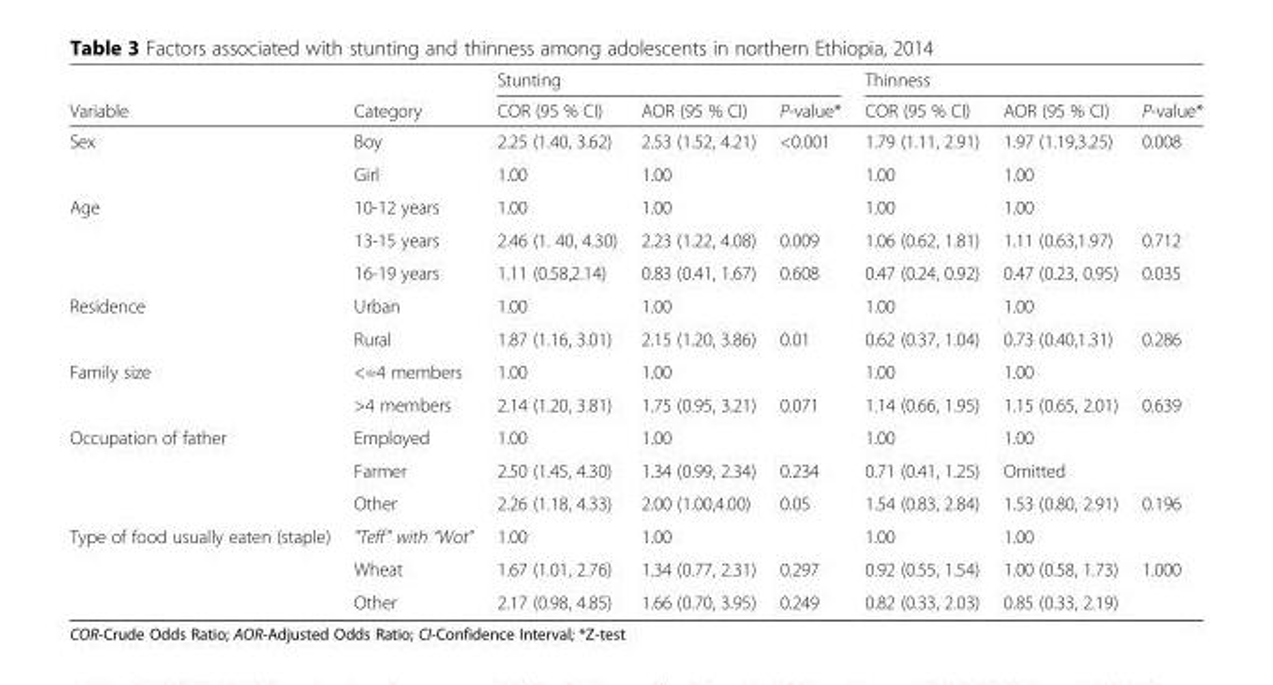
<table><thead><tr><td rowspan="2">Variable</td><td rowspan="2">Category</td><td colspan="3">Stunting</td><td colspan="3">Thinness</td></tr><tr><td>COR (95 % CI)</td><td>AOR (95 % CI)</td><td>P-value*</td><td>COR (95 % CI)</td><td>AOR (95 % CI)</td><td>P-value*</td></tr></thead><tbody><tr><td rowspan="2">Sex</td><td>Boy</td><td>2.25 (1.40, 3.62)</td><td>2.53 (1.52, 4.21)</td><td>&lt;0.001</td><td>1.79 (1.11, 2.91)</td><td>1.97 (1.19,3.25)</td><td>0.008</td></tr><tr><td>Girl</td><td>1.00</td><td>1.00</td><td></td><td>1.00</td><td>1.00</td><td></td></tr><tr><td rowspan="3">Age</td><td>10-12 years</td><td>1.00</td><td>1.00</td><td></td><td>1.00</td><td>1.00</td><td></td></tr><tr><td>13-15 years</td><td>2.46 (1. 40, 4.30)</td><td>2.23 (1.22, 4.08)</td><td>0.009</td><td>1.06 (0.62, 1.81)</td><td>1.11 (0.63,1.97)</td><td>0.712</td></tr><tr><td>16-19 years</td><td>1.11 (0.58,2.14)</td><td>0.83 (0.41, 1.67)</td><td>0.608</td><td>0.47 (0.24, 0.92)</td><td>0.47 (0.23, 0.95)</td><td>0.035</td></tr><tr><td rowspan="2">Residence</td><td>Urban</td><td>1.00</td><td>1.00</td><td></td><td>1.00</td><td>1.00</td><td></td></tr><tr><td>Rural</td><td>1.87 (1.16, 3.01)</td><td>2.15 (1.20, 3.86)</td><td>0.01</td><td>0.62 (0.37, 1.04)</td><td>0.73 (0.40,1.31)</td><td>0.286</td></tr><tr><td rowspan="2">Family size</td><td>&lt;=4 members</td><td>1.00</td><td>1.00</td><td></td><td>1.00</td><td>1.00</td><td></td></tr><tr><td>&gt;4 members</td><td>2.14 (1.20, 3.81)</td><td>1.75 (0.95, 3.21)</td><td>0.071</td><td>1.14 (0.66, 1.95)</td><td>1.15 (0.65, 2.01)</td><td>0.639</td></tr><tr><td rowspan="3">Occupation of father</td><td>Employed</td><td>1.00</td><td>1.00</td><td></td><td>1.00</td><td>1.00</td><td></td></tr><tr><td>Farmer</td><td>2.50 (1.45, 4.30)</td><td>1.34 (0.99, 2.34)</td><td>0.234</td><td>0.71 (0.41, 1.25)</td><td>Omitted</td><td></td></tr><tr><td>Other</td><td>2.26 (1.18, 4.33)</td><td>2.00 (1.00,4.00)</td><td>0.05</td><td>1.54 (0.83, 2.84)</td><td>1.53 (0.80, 2.91)</td><td>0.196</td></tr><tr><td rowspan="3">Type of food usually eaten (staple)</td><td>&quot;Teff&quot; with “Wot”</td><td>1.00</td><td>1.00</td><td></td><td>1.00</td><td>1.00</td><td></td></tr><tr><td>Wheat</td><td>1.67 (1.01, 2.76)</td><td>1.34 (0.77, 2.31)</td><td>0.297</td><td>0.92 (0.55, 1.54)</td><td>1.00 (0.58, 1.73)</td><td>1.000</td></tr><tr><td>Other</td><td>2.17 (0.98, 4.85)</td><td>1.66 (0.70, 3.95)</td><td>0.249</td><td>0.82 (0.33, 2.03)</td><td>0.85 (0.33, 2.19)</td><td></td></tr></tbody></table>